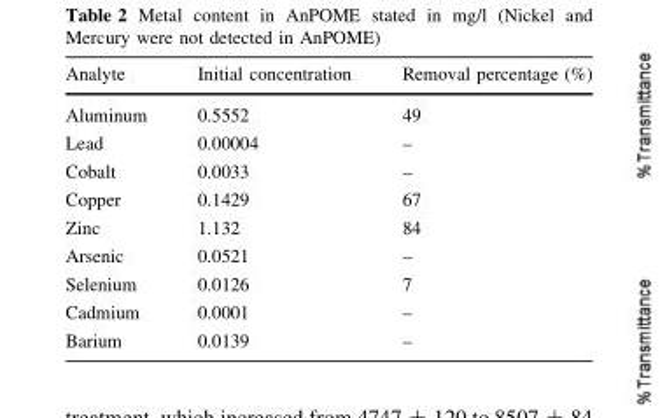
<table><thead><tr><td>Analyte</td><td>Initial concentration</td><td>Removal percentage (%)</td></tr></thead><tbody><tr><td>Aluminum</td><td>0.5552</td><td>49</td></tr><tr><td>Lead</td><td>0.00004</td><td>–</td></tr><tr><td>Cobalt</td><td>0.0033</td><td>–</td></tr><tr><td>Copper</td><td>0.1429</td><td>67</td></tr><tr><td>Zinc</td><td>1.132</td><td>84</td></tr><tr><td>Arsenic</td><td>0.0521</td><td>–</td></tr><tr><td>Selenium</td><td>0.0126</td><td>7</td></tr><tr><td>Cadmium</td><td>0.0001</td><td>–</td></tr><tr><td>Barium</td><td>0.0139</td><td>–</td></tr></tbody></table>